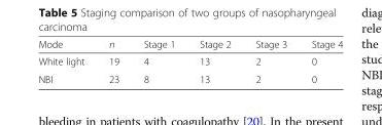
<table><thead><tr><td>Mode</td><td>n</td><td>Stage 1</td><td>Stage 2</td><td>Stage 3</td><td>Stage 4</td></tr></thead><tbody><tr><td>White light</td><td>19</td><td>4</td><td>13</td><td>2</td><td>0</td></tr><tr><td>NBI</td><td>23</td><td>8</td><td>13</td><td>2</td><td>0</td></tr></tbody></table>